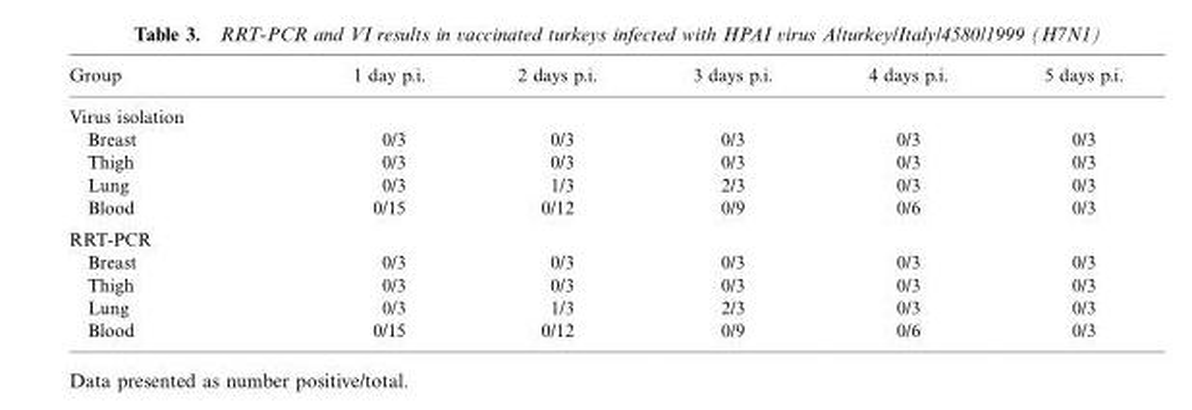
<table><thead><tr><td>Group</td><td>1 day p.i.</td><td>2 days p.i.</td><td>3 days p.i.</td><td>4 days p.i.</td><td>5 days p.i.</td></tr></thead><tbody><tr><td colspan="6">Virus isolation</td></tr><tr><td>Breast</td><td>0/3</td><td>0/3</td><td>0/3</td><td>0/3</td><td>0/3</td></tr><tr><td>Thigh</td><td>0/3</td><td>0/3</td><td>0/3</td><td>0/3</td><td>0/3</td></tr><tr><td>Lung</td><td>0/3</td><td>1/3</td><td>2/3</td><td>0/3</td><td>0/3</td></tr><tr><td>Blood</td><td>0/15</td><td>0/12</td><td>0/9</td><td>0/6</td><td>0/3</td></tr><tr><td colspan="6">RRT-PCR</td></tr><tr><td>Breast</td><td>0/3</td><td>0/3</td><td>0/3</td><td>0/3</td><td>0/3</td></tr><tr><td>Thigh</td><td>0/3</td><td>0/3</td><td>0/3</td><td>0/3</td><td>0/3</td></tr><tr><td>Lung</td><td>0/3</td><td>1/3</td><td>2/3</td><td>0/3</td><td>0/3</td></tr><tr><td>Blood</td><td>0/15</td><td>0/12</td><td>0/9</td><td>0/6</td><td>0/3</td></tr></tbody></table>